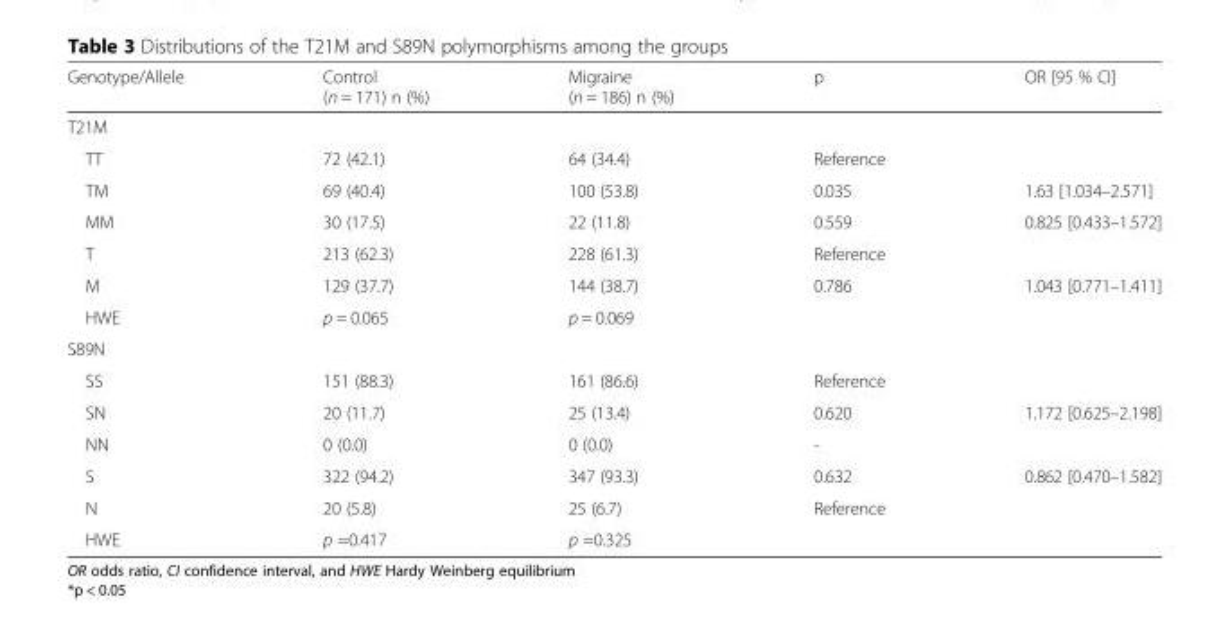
<table><thead><tr><td>Genotype/Allele</td><td>Control (n = 171) n (%)</td><td>Migraine (n = 186) n (%)</td><td>p</td><td>OR [95 % CI]</td></tr></thead><tbody><tr><td colspan="5">T21M</td></tr><tr><td>TT</td><td>72 (42.1)</td><td>64 (34.4)</td><td>Reference</td><td></td></tr><tr><td>TM</td><td>69 (40.4)</td><td>100 (53.8)</td><td>0.035</td><td>1.63 [1.034–2.571]</td></tr><tr><td>MM</td><td>30 (17.5)</td><td>22 (11.8)</td><td>0.559</td><td>0.825 [0.433–1.572]</td></tr><tr><td>T</td><td>213 (62.3)</td><td>228 (61.3)</td><td>Reference</td><td></td></tr><tr><td>M</td><td>129 (37.7)</td><td>144 (38.7)</td><td>0.786</td><td>1.043 [0.771–1.411]</td></tr><tr><td>HWE</td><td>p = 0.065</td><td>p = 0.069</td><td></td><td></td></tr><tr><td colspan="5">S89N</td></tr><tr><td>SS</td><td>151 (88.3)</td><td>161 (86.6)</td><td>Reference</td><td></td></tr><tr><td>SN</td><td>20 (11.7)</td><td>25 (13.4)</td><td>0.620</td><td rowspan="2">1.172 [0.625–2.198]</td></tr><tr><td>NN</td><td>0 (0.0)</td><td>0 (0.0)</td><td>-</td></tr><tr><td>S</td><td>322 (94.2)</td><td>347 (93.3)</td><td>0.632</td><td>0.862 [0.470–1.582]</td></tr><tr><td>N</td><td>20 (5.8)</td><td>25 (6.7)</td><td>Reference</td><td></td></tr><tr><td>HWE</td><td>p =0.417</td><td>p =0.325</td><td></td><td></td></tr></tbody></table>